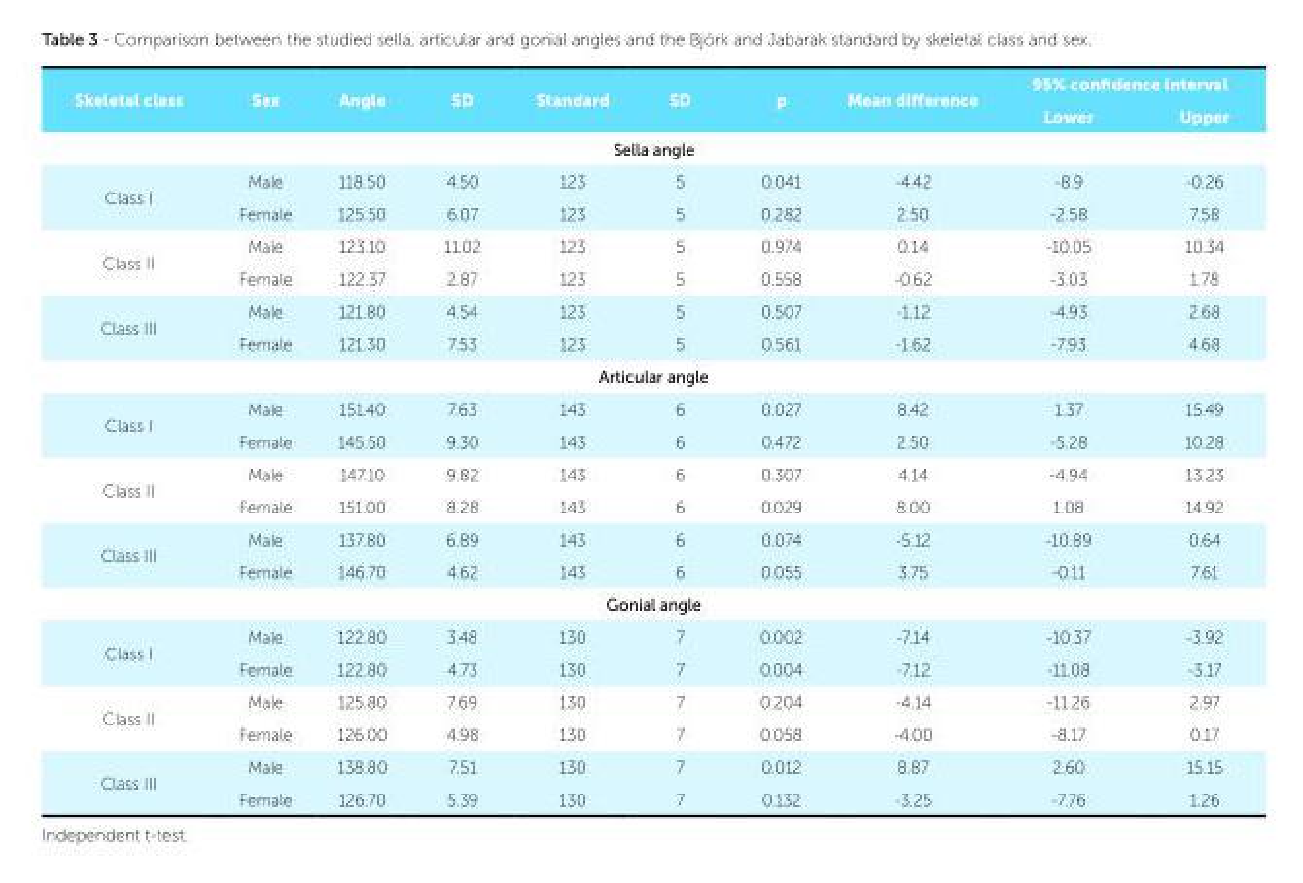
<table><thead><tr><td rowspan="2">Skeletal class</td><td rowspan="2">Sex</td><td rowspan="2">Angle</td><td rowspan="2">SD</td><td rowspan="2">Standard</td><td rowspan="2">SD</td><td rowspan="2">p</td><td rowspan="2">Mean difference</td><td colspan="2">95% confidence interval</td></tr><tr><td>Lower</td><td>Upper</td></tr></thead><tbody><tr><td colspan="10">Sella angle</td></tr><tr><td rowspan="2">Class I</td><td>Male</td><td>118.50</td><td>4.50</td><td>123</td><td>5</td><td>0.041</td><td>-4.42</td><td>-8.9</td><td>-0.26</td></tr><tr><td>Female</td><td>125.50</td><td>6.07</td><td>123</td><td>5</td><td>0.282</td><td>2.50</td><td>-2.58</td><td>7.58</td></tr><tr><td rowspan="2">Class II</td><td>Male</td><td>123.10</td><td>11.02</td><td>123</td><td>5</td><td>0.974</td><td>0.14</td><td>-10.05</td><td>10.34</td></tr><tr><td>Female</td><td>122.37</td><td>2.87</td><td>123</td><td>5</td><td>0.558</td><td>-0.62</td><td>-3.03</td><td>1.78</td></tr><tr><td rowspan="2">Class III</td><td>Male</td><td>121.80</td><td>4.54</td><td>123</td><td>5</td><td>0.507</td><td>-1.12</td><td>-4.93</td><td>2.68</td></tr><tr><td>Female</td><td>121.30</td><td>7.53</td><td>123</td><td>5</td><td>0.561</td><td>-1.62</td><td>-7.93</td><td>4.68</td></tr><tr><td colspan="10">Articular angle</td></tr><tr><td rowspan="2">Class I</td><td>Male</td><td>151.40</td><td>7.63</td><td>143</td><td>6</td><td>0.027</td><td>8.42</td><td>1.37</td><td>15.49</td></tr><tr><td>Female</td><td>145.50</td><td>9.30</td><td>143</td><td>6</td><td>0.472</td><td>2.50</td><td>-5.28</td><td>10.28</td></tr><tr><td rowspan="2">Class II</td><td>Male</td><td>147.10</td><td>9.82</td><td>143</td><td>6</td><td>0.307</td><td>4.14</td><td>-4.94</td><td>13.23</td></tr><tr><td>Female</td><td>151.00</td><td>8.28</td><td>143</td><td>6</td><td>0.029</td><td>8.00</td><td>1.08</td><td>14.92</td></tr><tr><td rowspan="2">Class III</td><td>Male</td><td>137.80</td><td>6.89</td><td>143</td><td>6</td><td>0.074</td><td>-5.12</td><td>-10.89</td><td>0.64</td></tr><tr><td>Female</td><td>146.70</td><td>4.62</td><td>143</td><td>6</td><td>0.055</td><td>3.75</td><td>-0.11</td><td>7.61</td></tr><tr><td colspan="10">Gonial angle</td></tr><tr><td rowspan="2">Class I</td><td>Male</td><td>122.80</td><td>3.48</td><td>130</td><td>7</td><td>0.002</td><td>-7.14</td><td>-10.37</td><td>-3.92</td></tr><tr><td>Female</td><td>122.80</td><td>4.73</td><td>130</td><td>7</td><td>0.004</td><td>-7.12</td><td>-11.08</td><td>-3.17</td></tr><tr><td rowspan="2">Class II</td><td>Male</td><td>125.80</td><td>7.69</td><td>130</td><td>7</td><td>0.204</td><td>-4.14</td><td>-11.26</td><td>2.97</td></tr><tr><td>Female</td><td>126.00</td><td>4.98</td><td>130</td><td>7</td><td>0.058</td><td>-4.00</td><td>-8.17</td><td>0.17</td></tr><tr><td rowspan="2">Class III</td><td>Male</td><td>138.80</td><td>7.51</td><td>130</td><td>7</td><td>0.012</td><td>8.87</td><td>2.60</td><td>15.15</td></tr><tr><td>Female</td><td>126.70</td><td>5.39</td><td>130</td><td>7</td><td>0.132</td><td>-3.25</td><td>-7.76</td><td>1.26</td></tr></tbody></table>